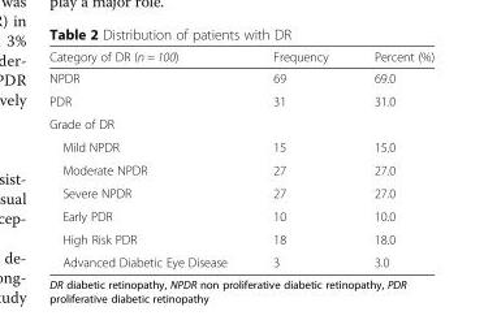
<table><thead><tr><td>Category of DR (n = 100)</td><td>Frequency</td><td>Percent (%)</td></tr></thead><tbody><tr><td>NPDR</td><td>69</td><td>69.0</td></tr><tr><td>PDR</td><td>31</td><td>31.0</td></tr><tr><td colspan="3">Grade of DR</td></tr><tr><td>Mild NPDR</td><td>15</td><td>15.0</td></tr><tr><td>Moderate NPDR</td><td>27</td><td>27.0</td></tr><tr><td>Severe NPDR</td><td>27</td><td>27.0</td></tr><tr><td>Early PDR</td><td>10</td><td>10.0</td></tr><tr><td>High Risk PDR</td><td>18</td><td>18.0</td></tr><tr><td>Advanced Diabetic Eye Disease</td><td>3</td><td>3.0</td></tr></tbody></table>